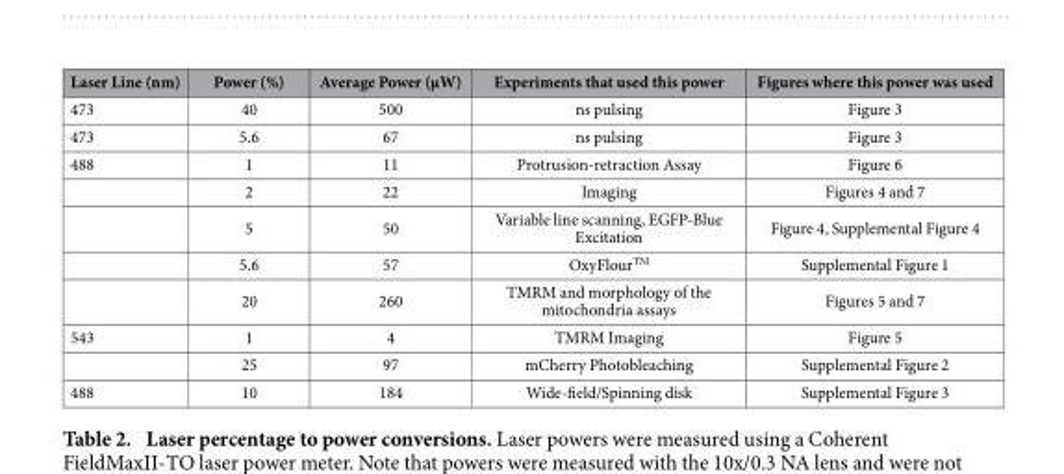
<table><thead><tr><td>Laser Line (nm)</td><td>Power (%)</td><td>Average Power (μW)</td><td>Experiments that used this power</td><td>Figures where this power was used</td></tr></thead><tbody><tr><td>473</td><td>40</td><td>500</td><td>ns pulsing</td><td>Figure 3</td></tr><tr><td>473</td><td>5.6</td><td>67</td><td>ns pulsing</td><td>Figure 3</td></tr><tr><td rowspan="5">488</td><td>1</td><td>11</td><td>Protrusion-retraction Assay</td><td>Figure 6</td></tr><tr><td>2</td><td>22</td><td>Imaging</td><td>Figures 4 and 7</td></tr><tr><td>5</td><td>50</td><td>Variable line scanning, EGFP-Blue Excitation</td><td>Figure 4, Supplemental Figure 4</td></tr><tr><td>5.6</td><td>57</td><td>OxyFlour<sup>TM</sup></td><td>Supplemental Figure 1</td></tr><tr><td>20</td><td>260</td><td>TMRM and morphology of the mitochondria assays</td><td>Figures 5 and 7</td></tr><tr><td rowspan="2">543</td><td>1</td><td>4</td><td>TMRM Imaging</td><td>Figure 5</td></tr><tr><td>25</td><td>97</td><td>mCherry Photobleaching</td><td>Supplemental Figure 2</td></tr><tr><td>488</td><td>10</td><td>184</td><td>Wide-field/Spinning disk</td><td>Supplemental Figure 3</td></tr></tbody></table>